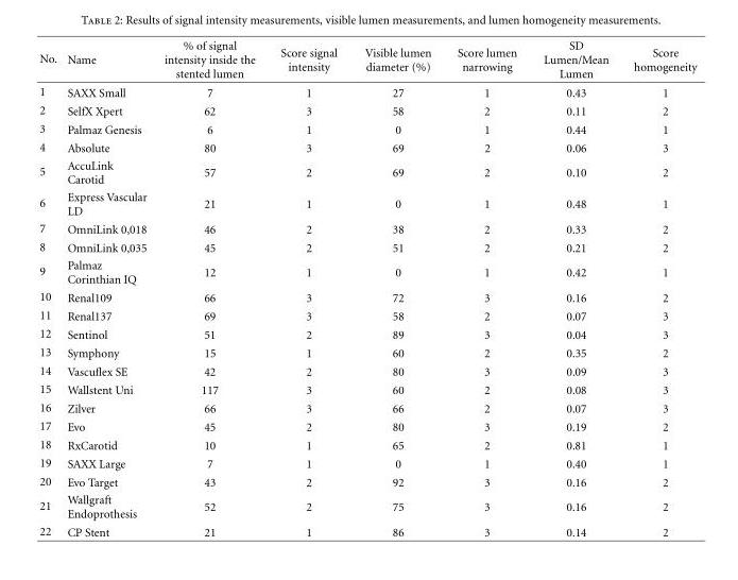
<table><thead><tr><td>No.</td><td>Name</td><td>% of signal intensity inside the stented lumen</td><td>Score signal intensity</td><td>Visible lumen diameter (%)</td><td>Score lumen narrowing</td><td>SD Lumen/Mean Lumen</td><td>Score homogeneity</td></tr></thead><tbody><tr><td>1</td><td>SAXX Small</td><td>7</td><td>1</td><td>27</td><td>1</td><td>0.43</td><td>1</td></tr><tr><td>2</td><td>SelfX Xpert</td><td>62</td><td>3</td><td>58</td><td>2</td><td>0.11</td><td>2</td></tr><tr><td>3</td><td>Palmaz Genesis</td><td>6</td><td>1</td><td>0</td><td>1</td><td>0.44</td><td>1</td></tr><tr><td>4</td><td>Absolute</td><td>80</td><td>3</td><td>69</td><td>2</td><td>0.06</td><td>3</td></tr><tr><td>5</td><td>AccuLink Carotid</td><td>57</td><td>2</td><td>69</td><td>2</td><td>0.10</td><td>2</td></tr><tr><td>6</td><td>Express Vascular LD</td><td>21</td><td>1</td><td>0</td><td>1</td><td>0.48</td><td>1</td></tr><tr><td>7</td><td>OmniLink 0,018</td><td>46</td><td>2</td><td>38</td><td>2</td><td>0.33</td><td>2</td></tr><tr><td>8</td><td>OmniLink 0,035</td><td>45</td><td>2</td><td>51</td><td>2</td><td>0.21</td><td>2</td></tr><tr><td>9</td><td>Palmaz Corinthian IQ</td><td>12</td><td>1</td><td>0</td><td>1</td><td>0.42</td><td>1</td></tr><tr><td>10</td><td>Renal109</td><td>66</td><td>3</td><td>72</td><td>3</td><td>0.16</td><td>2</td></tr><tr><td>11</td><td>Renal137</td><td>69</td><td>3</td><td>58</td><td>2</td><td>0.07</td><td>3</td></tr><tr><td>12</td><td>Sentinol</td><td>51</td><td>2</td><td>89</td><td>3</td><td>0.04</td><td>3</td></tr><tr><td>13</td><td>Symphony</td><td>15</td><td>1</td><td>60</td><td>2</td><td>0.35</td><td>2</td></tr><tr><td>14</td><td>Vascuflex SE</td><td>42</td><td>2</td><td>80</td><td>3</td><td>0.09</td><td>3</td></tr><tr><td>15</td><td>Wallstent Uni</td><td>117</td><td>3</td><td>60</td><td>2</td><td>0.08</td><td>3</td></tr><tr><td>16</td><td>Zilver</td><td>66</td><td>3</td><td>66</td><td>2</td><td>0.07</td><td>3</td></tr><tr><td>17</td><td>Evo</td><td>45</td><td>2</td><td>80</td><td>3</td><td>0.19</td><td>2</td></tr><tr><td>18</td><td>RxCarotid</td><td>10</td><td>1</td><td>65</td><td>2</td><td>0.81</td><td>1</td></tr><tr><td>19</td><td>SAXX Large</td><td>7</td><td>1</td><td>0</td><td>1</td><td>0.40</td><td>1</td></tr><tr><td>20</td><td>Evo Target</td><td>43</td><td>2</td><td>92</td><td>3</td><td>0.16</td><td>2</td></tr><tr><td>21</td><td>Wallgraft Endoprothesis</td><td>52</td><td>2</td><td>75</td><td>3</td><td>0.16</td><td>2</td></tr><tr><td>22</td><td>CP Stent</td><td>21</td><td>1</td><td>86</td><td>3</td><td>0.14</td><td>2</td></tr></tbody></table>